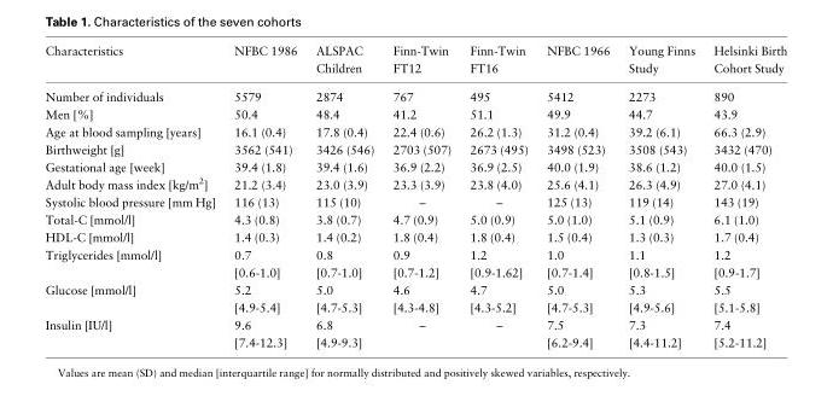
<table><thead><tr><td rowspan="2">Characteristics</td><td rowspan="2">NFBC 1986</td><td rowspan="2">ALSPAC Children</td><td rowspan="2">Finn-Twin FT12</td><td rowspan="2">Finn-Twin FT16</td><td rowspan="2">NFBC 1966</td><td rowspan="2">Young Finns Study</td><td rowspan="2">Helsinki Birth Cohort Study</td></tr><tr></tr></thead><tbody><tr><td>Number of individuals</td><td>5579</td><td>2874</td><td>767</td><td>495</td><td>5412</td><td>2273</td><td>890</td></tr><tr><td>Men [%]</td><td>50.4</td><td>48.4</td><td>41.2</td><td>51.1</td><td>49.9</td><td>44.7</td><td>43.9</td></tr><tr><td>Age at blood sampling [years]</td><td>16.1 (0.4)</td><td>17.8 (0.4)</td><td>22.4 (0.6)</td><td>26.2 (1.3)</td><td>31.2 (0.4)</td><td>39.2 (6.1)</td><td>66.3 (2.9)</td></tr><tr><td>Birthweight [g]</td><td>3562 (541)</td><td>3426 (546)</td><td>2703 (507)</td><td>2673 (495)</td><td>3498 (523)</td><td>3508 (543)</td><td>3432 (470)</td></tr><tr><td>Gestational age [week]</td><td>39.4 (1.8)</td><td>39.4 (1.6)</td><td>36.9 (2.2)</td><td>36.9 (2.5)</td><td>40.0 (1.9)</td><td>38.6 (1.2)</td><td>40.0 (1.5)</td></tr><tr><td>Adult body mass index [kg/m<sup>2</sup>]</td><td>21.2 (3.4)</td><td>23.0 (3.9)</td><td>23.3 (3.9)</td><td>23.8 (4.0)</td><td>25.6 (4.1)</td><td>26.3 (4.9)</td><td>27.0 (4.1)</td></tr><tr><td>Systolic blood pressure [mm Hg]</td><td>116 (13)</td><td>115 (10)</td><td>–</td><td>–</td><td>125 (13)</td><td>119 (14)</td><td>143 (19)</td></tr><tr><td>Total-C [mmol/l]</td><td>4.3 (0.8)</td><td>3.8 (0.7)</td><td>4.7 (0.9)</td><td>5.0 (0.9)</td><td>5.0 (1.0)</td><td>5.1 (0.9)</td><td>6.1 (1.0)</td></tr><tr><td>HDL-C [mmol/l]</td><td>1.4 (0.3)</td><td>1.4 (0.2)</td><td>1.8 (0.4)</td><td>1.8 (0.4)</td><td>1.5 (0.4)</td><td>1.3 (0.3)</td><td>1.7 (0.4)</td></tr><tr><td rowspan="2">Triglycerides [mmol/l]</td><td>0.7</td><td>0.8</td><td>0.9</td><td>1.2</td><td>1.0</td><td>1.1</td><td>1.2</td></tr><tr><td>[0.6-1.0]</td><td>[0.7-1.0]</td><td>[0.7-1.2]</td><td>[0.9-1.62]</td><td>[0.7-1.4]</td><td>[0.8-1.5]</td><td>[0.9-1.7]</td></tr><tr><td rowspan="2">Glucose [mmol/l]</td><td>5.2</td><td>5.0</td><td>4.6</td><td>4.7</td><td>5.0</td><td>5.3</td><td>5.5</td></tr><tr><td>[4.9-5.4]</td><td>[4.7-5.3]</td><td>[4.3-4.8]</td><td>[4.3-5.2]</td><td>[4.7-5.3]</td><td>[4.9-5.6]</td><td>[5.1-5.8]</td></tr><tr><td rowspan="2">Insulin [IU/l]</td><td>9.6</td><td>6.8</td><td rowspan="2">–</td><td rowspan="2">–</td><td>7.5</td><td>7.3</td><td>7.4</td></tr><tr><td>[7.4-12.3]</td><td>[4.9-9.3]</td><td>[6.2-9.4]</td><td>[4.4-11.2]</td><td>[5.2-11.2]</td></tr></tbody></table>